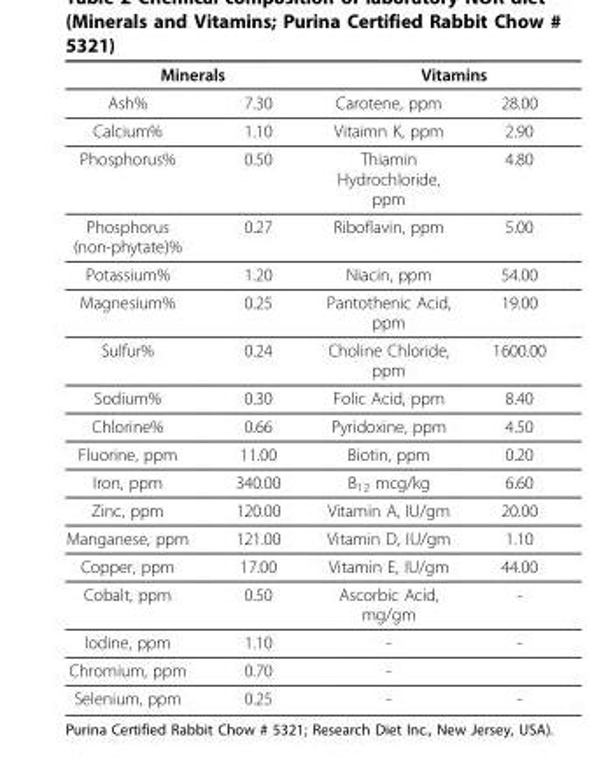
<table><thead><tr><td colspan="2">Minerals</td><td colspan="2">Vitamins</td></tr><tr><td>Ash%</td><td>7.30</td><td>Carotene, ppm</td><td>28.00</td></tr></thead><tbody><tr><td>Calcium%</td><td>1.10</td><td>Vitaimn K, ppm</td><td>2.90</td></tr><tr><td>Phosphorus%</td><td>0.50</td><td>Thiamin Hydrochloride, ppm</td><td>4.80</td></tr><tr><td>Phosphorus (non-phytate)%</td><td>0.27</td><td>Riboflavin, ppm</td><td>5.00</td></tr><tr><td>Potassium%</td><td>1.20</td><td>Niacin, ppm</td><td>54.00</td></tr><tr><td>Magnesium%</td><td>0.25</td><td>Pantothenic Acid, ppm</td><td>19.00</td></tr><tr><td>Sulfur%</td><td>0.24</td><td>Choline Chloride, ppm</td><td>1600.00</td></tr><tr><td>Sodium%</td><td>0.30</td><td>Folic Acid, ppm</td><td>8.40</td></tr><tr><td>Chlorine%</td><td>0.66</td><td>Pyridoxine, ppm</td><td>4.50</td></tr><tr><td>Fluorine, ppm</td><td>11.00</td><td>Biotin, ppm</td><td>0.20</td></tr><tr><td>Iron, ppm</td><td>340.00</td><td>B<sub>12</sub> mcg/kg</td><td>6.60</td></tr><tr><td>Zinc, ppm</td><td>120.00</td><td>Vitamin A, IU/gm</td><td>20.00</td></tr><tr><td>Manganese, ppm</td><td>121.00</td><td>Vitamin D, IU/gm</td><td>1.10</td></tr><tr><td>Copper, ppm</td><td>17.00</td><td>Vitamin E, IU/gm</td><td>44.00</td></tr><tr><td>Cobalt, ppm</td><td>0.50</td><td>Ascorbic Acid, mg/gm</td><td>-</td></tr><tr><td>Iodine, ppm</td><td>1.10</td><td>-</td><td>-</td></tr><tr><td>Chromium, ppm</td><td>0.70</td><td>-</td><td></td></tr><tr><td>Selenium, ppm</td><td>0.25</td><td>-</td><td>-</td></tr></tbody></table>